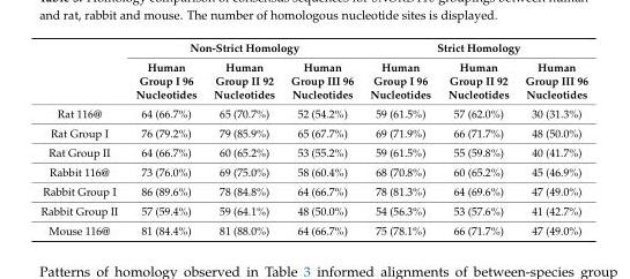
<table><thead><tr><td rowspan="2"></td><td colspan="3">Non-Strict Homology</td><td colspan="3">Strict Homology</td></tr><tr><td>Human Group I 96 Nucleotides</td><td>Human Group II 92 Nucleotides</td><td>Human Group III 96 Nucleotides</td><td>Human Group I 96 Nucleotides</td><td>Human Group II 92 Nucleotides</td><td>Human Group III 96 Nucleotides</td></tr></thead><tbody><tr><td>Rat 116@</td><td>64 (66.7%)</td><td>65 (70.7%)</td><td>52 (54.2%)</td><td>59 (61.5%)</td><td>57 (62.0%)</td><td>30 (31.3%)</td></tr><tr><td>Rat Group I</td><td>76 (79.2%)</td><td>79 (85.9%)</td><td>65 (67.7%)</td><td>69 (71.9%)</td><td>66 (71.7%)</td><td>48 (50.0%)</td></tr><tr><td>Rat Group II</td><td>64 (66.7%)</td><td>60 (65.2%)</td><td>53 (55.2%)</td><td>59 (61.5%)</td><td>55 (59.8%)</td><td>40 (41.7%)</td></tr><tr><td>Rabbit 116@</td><td>73 (76.0%)</td><td>69 (75.0%)</td><td>58 (60.4%)</td><td>68 (70.8%)</td><td>60 (65.2%)</td><td>45 (46.9%)</td></tr><tr><td>Rabbit Group I</td><td>86 (89.6%)</td><td>78 (84.8%)</td><td>64 (66.7%)</td><td>78 (81.3%)</td><td>64 (69.6%)</td><td>47 (49.0%)</td></tr><tr><td>Rabbit Group II</td><td>57 (59.4%)</td><td>59 (64.1%)</td><td>48 (50.0%)</td><td>54 (56.3%)</td><td>53 (57.6%)</td><td>41 (42.7%)</td></tr><tr><td>Mouse 116@</td><td>81 (84.4%)</td><td>81 (88.0%)</td><td>64 (66.7%)</td><td>75 (78.1%)</td><td>66 (71.7%)</td><td>47 (49.0%)</td></tr></tbody></table>